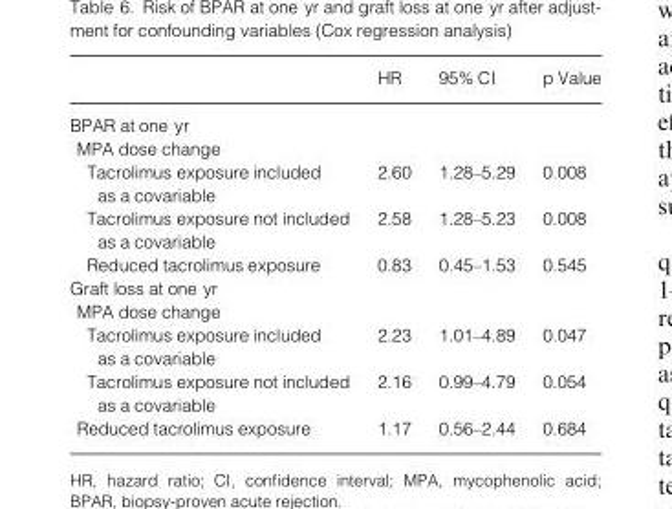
<table><thead><tr><td></td><td>HR</td><td>95% CI</td><td>p Value</td></tr></thead><tbody><tr><td colspan="4">BPAR at one yr</td></tr><tr><td colspan="4">MPA dose change</td></tr><tr><td>Tacrolimus exposure included as a covariable</td><td>2.60</td><td>1.28–5.29</td><td>0.008</td></tr><tr><td>Tacrolimus exposure not included as a covariable</td><td>2.58</td><td>1.28–5.23</td><td>0.008</td></tr><tr><td>Reduced tacrolimus exposure</td><td>0.83</td><td>0.45–1.53</td><td>0.545</td></tr><tr><td colspan="4">Graft loss at one yr</td></tr><tr><td colspan="4">MPA dose change</td></tr><tr><td>Tacrolimus exposure included as a covariable</td><td>2.23</td><td>1.01–4.89</td><td>0.047</td></tr><tr><td>Tacrolimus exposure not included as a covariable</td><td>2.16</td><td>0.99–4.79</td><td>0.054</td></tr><tr><td>Reduced tacrolimus exposure</td><td>1.17</td><td>0.56–2.44</td><td>0.684</td></tr></tbody></table>